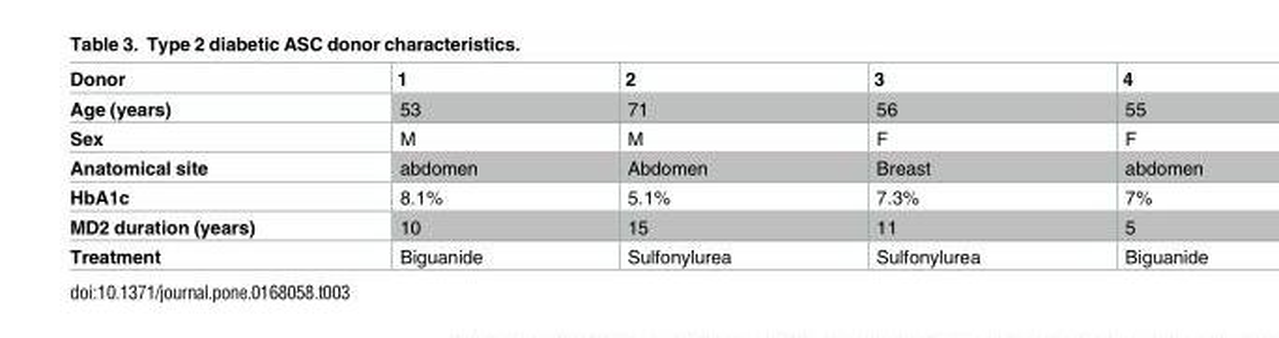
<table><thead><tr><td>Donor</td><td>1</td><td>2</td><td>3</td><td>4</td></tr></thead><tbody><tr><td>Age (years)</td><td>53</td><td>71</td><td>56</td><td>55</td></tr><tr><td>Sex</td><td>M</td><td>M</td><td>F</td><td>F</td></tr><tr><td>Anatomical site</td><td>abdomen</td><td>Abdomen</td><td>Breast</td><td>abdomen</td></tr><tr><td>HbA1c</td><td>8.1%</td><td>5.1%</td><td>7.3%</td><td>7%</td></tr><tr><td>MD2 duration (years)</td><td>10</td><td>15</td><td>11</td><td>5</td></tr><tr><td>Treatment</td><td>Biguanide</td><td>Sulfonylurea</td><td>Sulfonylurea</td><td>Biguanide</td></tr></tbody></table>